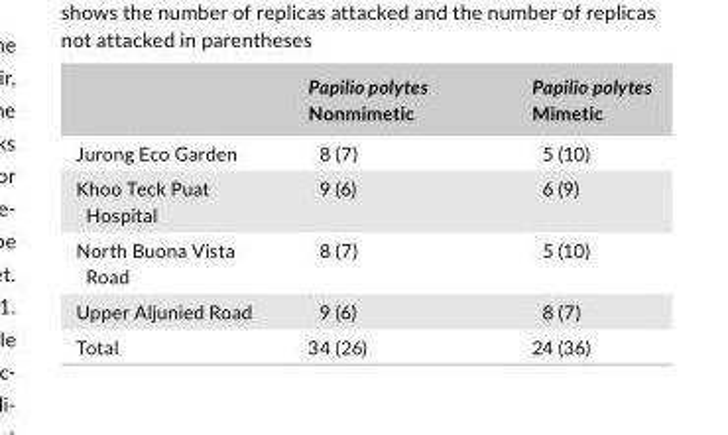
<table><thead><tr><td></td><td>Papilio polytes Nonmimetic</td><td>Papilio polytes Mimetic</td></tr></thead><tbody><tr><td>Jurong Eco Garden</td><td>8 (7)</td><td>5 (10)</td></tr><tr><td>Khoo Teck Puat Hospital</td><td>9 (6)</td><td>6 (9)</td></tr><tr><td>North Buona Vista Road</td><td>8 (7)</td><td>5 (10)</td></tr><tr><td>Upper Aljunied Road</td><td>9 (6)</td><td>8 (7)</td></tr><tr><td>Total</td><td>34 (26)</td><td>24 (36)</td></tr></tbody></table>